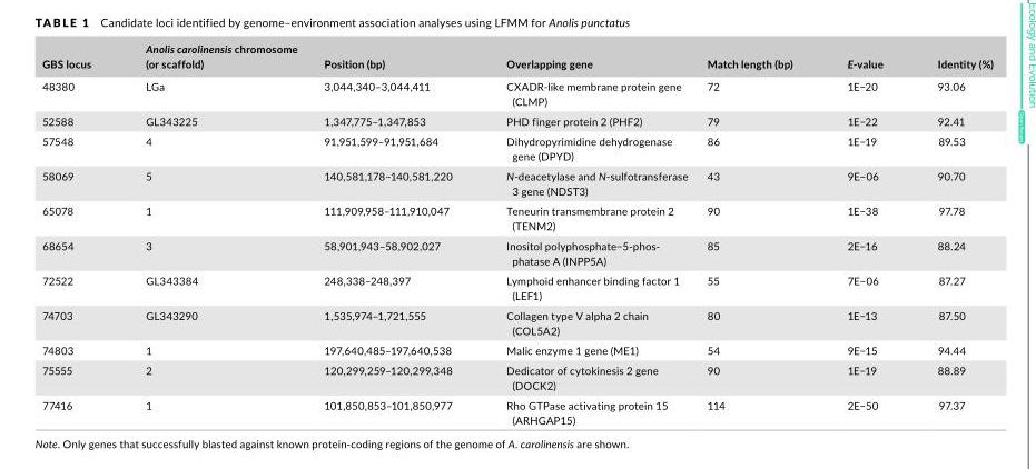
<table><thead><tr><td>GBS locus</td><td>Anolis carolinensis chromosome (or scaffold)</td><td>Position (bp)</td><td>Overlapping gene</td><td>Match length (bp)</td><td>E‐value</td><td>Identity (%)</td></tr></thead><tbody><tr><td>48380</td><td>LGa</td><td>3,044,340–3,044,411</td><td>CXADR-like membrane protein gene (CLMP)</td><td>72</td><td>1E−20</td><td>93.06</td></tr><tr><td>52588</td><td>GL343225</td><td>1,347,775–1,347,853</td><td>PHD finger protein 2 (PHF2)</td><td>79</td><td>1E−22</td><td>92.41</td></tr><tr><td>57548</td><td>4</td><td>91,951,599–91,951,684</td><td>Dihydropyrimidine dehydrogenase gene (DPYD)</td><td>86</td><td>1E−19</td><td>89.53</td></tr><tr><td>58069</td><td>5</td><td>140,581,178–140,581,220</td><td>N‐deacetylase and N‐sulfotransferase 3 gene (NDST3)</td><td>43</td><td>9E−06</td><td>90.70</td></tr><tr><td>65078</td><td>1</td><td>111,909,958–111,910,047</td><td>Teneurin transmembrane protein 2 (TENM2)</td><td>90</td><td>1E−38</td><td>97.78</td></tr><tr><td>68654</td><td>3</td><td>58,901,943–58,902,027</td><td>Inositol polyphosphate−5-phos‐ phatase A (INPP5A)</td><td>85</td><td>2E−16</td><td>88.24</td></tr><tr><td>72522</td><td>GL343384</td><td>248,338–248,397</td><td>Lymphoid enhancer binding factor 1 (LEF1)</td><td>55</td><td>7E−06</td><td>87.27</td></tr><tr><td>74703</td><td>GL343290</td><td>1,535,974–1,721,555</td><td>Collagen type V alpha 2 chain (COL5A2)</td><td>80</td><td>1E−13</td><td>87.50</td></tr><tr><td>74803</td><td>1</td><td>197,640,485–197,640,538</td><td>Malic enzyme 1 gene (ME1)</td><td>54</td><td>9E−15</td><td>94.44</td></tr><tr><td>75555</td><td>2</td><td>120,299,259–120,299,348</td><td>Dedicator of cytokinesis 2 gene (DOCK2)</td><td>90</td><td>1E−19</td><td>88.89</td></tr><tr><td>77416</td><td>1</td><td>101,850,853–101,850,977</td><td>Rho GTPase activating protein 15 (ARHGAP15)</td><td>114</td><td>2E−50</td><td>97.37</td></tr></tbody></table>